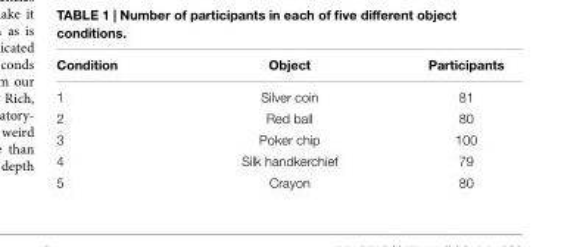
<table><thead><tr><td>Condition</td><td>Object</td><td>Participants</td></tr></thead><tbody><tr><td>1</td><td>Silver coin</td><td>81</td></tr><tr><td>2</td><td>Red ball</td><td>80</td></tr><tr><td>3</td><td>Poker chip</td><td>100</td></tr><tr><td>4</td><td>Silk handkerchief</td><td>79</td></tr><tr><td>5</td><td>Crayon</td><td>80</td></tr></tbody></table>